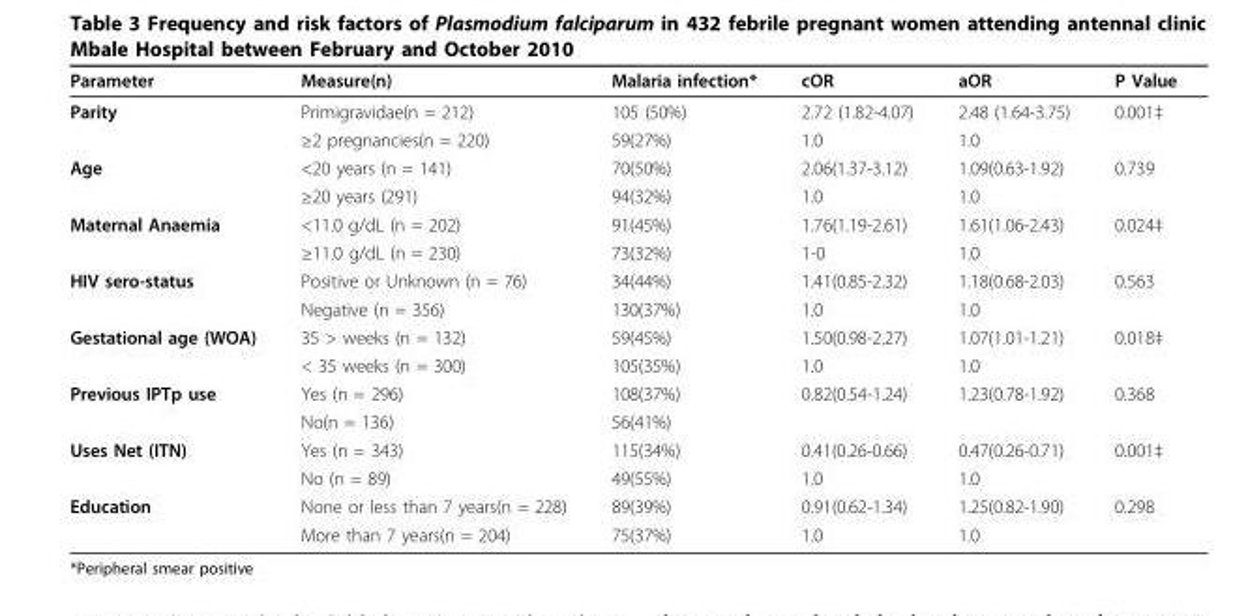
<table><thead><tr><td>Parameter</td><td>Measure(n)</td><td>Malaria infection*</td><td>cOR</td><td>aOR</td><td>P Value</td></tr></thead><tbody><tr><td rowspan="2">Parity</td><td>Primigravidae(n = 212)</td><td>105 (50%)</td><td>2.72 (1.82-4.07)</td><td>2.48 (1.64-3.75)</td><td>0.001‡</td></tr><tr><td>≥2 pregnancies(n = 220)</td><td>59(27%)</td><td>1.0</td><td>1.0</td><td></td></tr><tr><td rowspan="2">Age</td><td>&lt;20 years (n = 141)</td><td>70(50%)</td><td>2.06(1.37-3.12)</td><td>1.09(0.63-1.92)</td><td>0.739</td></tr><tr><td>≥20 years (291)</td><td>94(32%)</td><td>1.0</td><td>1.0</td><td></td></tr><tr><td rowspan="2">Maternal Anaemia</td><td>&lt;11.0 g/dL (n = 202)</td><td>91(45%)</td><td>1.76(1.19-2.61)</td><td>1.61(1.06-2.43)</td><td>0.024‡</td></tr><tr><td>≥11.0 g/dL (n = 230)</td><td>73(32%)</td><td>1-0</td><td>1.0</td><td></td></tr><tr><td rowspan="2">HIV sero-status</td><td>Positive or Unknown (n = 76)</td><td>34(44%)</td><td>1.41(0.85-2.32)</td><td>1.18(0.68-2.03)</td><td>0.563</td></tr><tr><td>Negative (n = 356)</td><td>130(37%)</td><td>1.0</td><td>1.0</td><td></td></tr><tr><td rowspan="2">Gestational age (WOA)</td><td>35 &gt; weeks (n = 132)</td><td>59(45%)</td><td>1.50(0.98-2.27)</td><td>1.07(1.01-1.21)</td><td>0.018‡</td></tr><tr><td>&lt; 35 weeks (n = 300)</td><td>105(35%)</td><td>1.0</td><td>1.0</td><td></td></tr><tr><td rowspan="2">Previous IPTp use</td><td>Yes (n = 296)</td><td>108(37%)</td><td>0.82(0.54-1.24)</td><td>1.23(0.78-1.92)</td><td>0.368</td></tr><tr><td>No(n = 136)</td><td>56(41%)</td><td></td><td></td><td></td></tr><tr><td rowspan="2">Uses Net (ITN)</td><td>Yes (n = 343)</td><td>115(34%)</td><td>0.41(0.26-0.66)</td><td>0.47(0.26-0.71)</td><td>0.001‡</td></tr><tr><td>No (n = 89)</td><td>49(55%)</td><td>1.0</td><td>1.0</td><td></td></tr><tr><td rowspan="2">Education</td><td>None or less than 7 years(n = 228)</td><td>89(39%)</td><td>0.91(0.62-1.34)</td><td>1.25(0.82-1.90)</td><td>0.298</td></tr><tr><td>More than 7 years(n = 204)</td><td>75(37%)</td><td>1.0</td><td>1.0</td><td></td></tr></tbody></table>